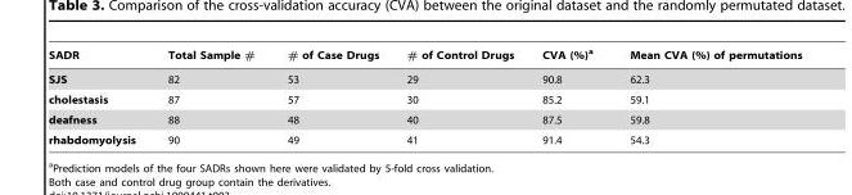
<table><thead><tr><td>SADR</td><td>Total Sample #</td><td># of Case Drugs</td><td># of Control Drugs</td><td>CVA (%)<sup>a</sup></td><td>Mean CVA (%) of permutations</td></tr></thead><tbody><tr><td>SJS</td><td>82</td><td>53</td><td>29</td><td>90.8</td><td>62.3</td></tr><tr><td>cholestasis</td><td>87</td><td>57</td><td>30</td><td>85.2</td><td>59.1</td></tr><tr><td>deafness</td><td>88</td><td>48</td><td>40</td><td>87.5</td><td>59.8</td></tr><tr><td>rhabdomyolysis</td><td>90</td><td>49</td><td>41</td><td>91.4</td><td>54.3</td></tr></tbody></table>